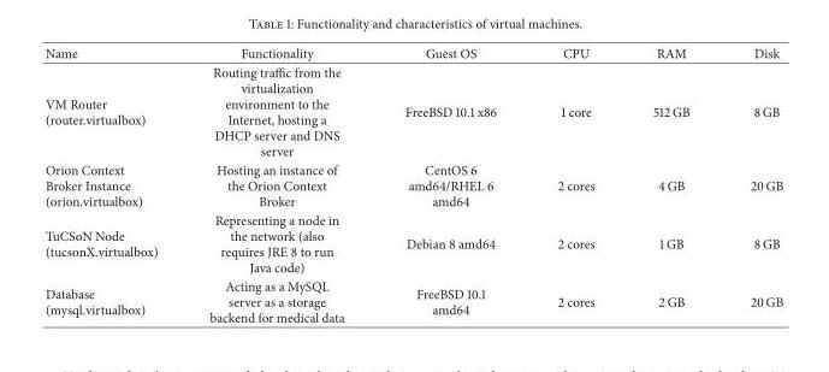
<table><thead><tr><td>Name</td><td>Functionality</td><td>Guest OS</td><td>CPU</td><td>RAM</td><td>Disk</td></tr></thead><tbody><tr><td>VM Router (router.virtualbox)</td><td>Routing traffic from the virtualization environment to the Internet, hosting a DHCP server and DNS server</td><td>FreeBSD 10.1 x86</td><td>1 core</td><td>512 GB</td><td>8 GB</td></tr><tr><td>Orion Context Broker Instance (orion.virtualbox)</td><td>Hosting an instance of the Orion Context Broker</td><td>CentOS 6 amd64/RHEL 6 amd64</td><td>2 cores</td><td>4 GB</td><td>20 GB</td></tr><tr><td>TuCSoN Node (tucsonX.virtualbox)</td><td>Representing a node in the network (also requires JRE 8 to run Java code)</td><td>Debian 8 amd64</td><td>2 cores</td><td>1 GB</td><td>8 GB</td></tr><tr><td>Database (mysql.virtualbox)</td><td>Acting as a MySQL server as a storage backend for medical data</td><td>FreeBSD 10.1 amd64</td><td>2 cores</td><td>2 GB</td><td>20 GB</td></tr></tbody></table>